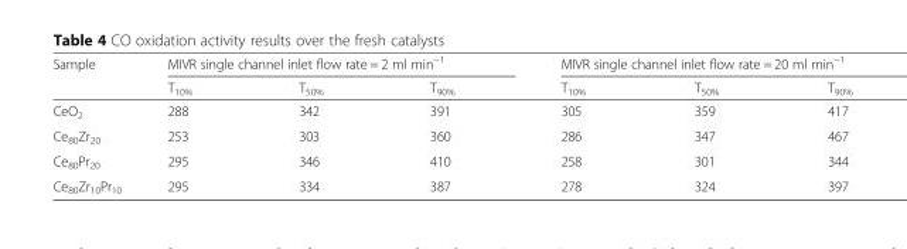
<table><thead><tr><td rowspan="2">Sample</td><td colspan="3">MIVR single channel inlet flow rate = 2 ml min<sup>−1</sup></td><td colspan="3">MIVR single channel inlet flow rate = 20 ml min<sup>−1</sup></td></tr><tr><td>T<sub>10%</sub></td><td>T<sub>50%</sub></td><td>T<sub>90%</sub></td><td>T<sub>10%</sub></td><td>T<sub>50%</sub></td><td>T<sub>90%</sub></td></tr></thead><tbody><tr><td>CeO<sub>2</sub></td><td>288</td><td>342</td><td>391</td><td>305</td><td>359</td><td>417</td></tr><tr><td>Ce<sub>80</sub>Zr<sub>20</sub></td><td>253</td><td>303</td><td>360</td><td>286</td><td>347</td><td>467</td></tr><tr><td>Ce<sub>80</sub>Pr<sub>20</sub></td><td>295</td><td>346</td><td>410</td><td>258</td><td>301</td><td>344</td></tr><tr><td>Ce<sub>80</sub>Zr<sub>10</sub>Pr<sub>10</sub></td><td>295</td><td>334</td><td>387</td><td>278</td><td>324</td><td>397</td></tr></tbody></table>